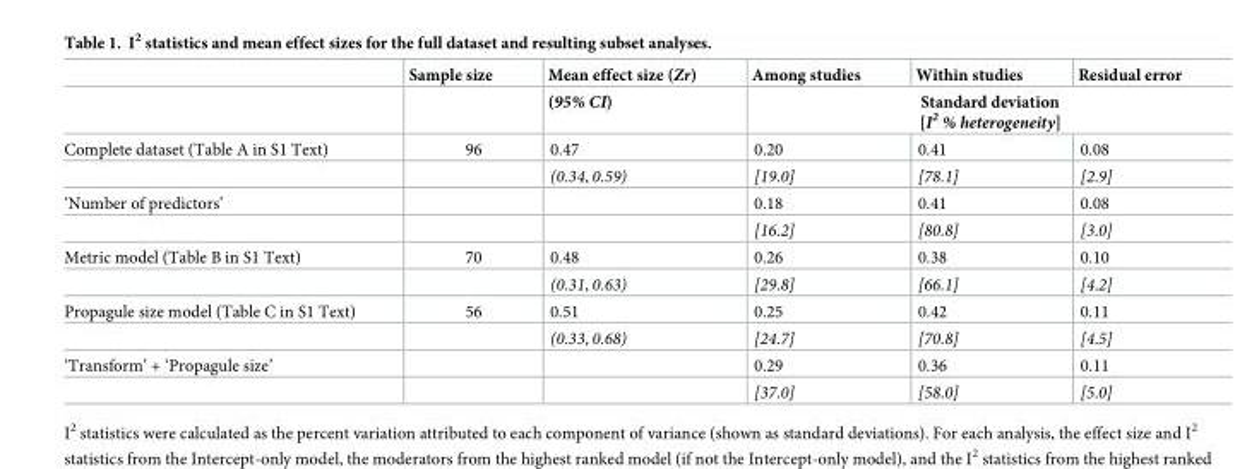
<table><thead><tr><td rowspan="2"></td><td rowspan="2">Sample size</td><td rowspan="2">Mean effect size (Zr) (95% CI)</td><td>Among studies</td><td>Within studies</td><td>Residual error</td></tr><tr><td colspan="3">Standard deviation [I<sup>2</sup> % heterogeneity]</td></tr></thead><tbody><tr><td rowspan="2">Complete dataset (Table A in S1 Text)</td><td>96</td><td>0.47</td><td>0.20</td><td>0.41</td><td>0.08</td></tr><tr><td></td><td>(0.34, 0.59)</td><td>[19.0]</td><td>[78.1]</td><td>[2.9]</td></tr><tr><td rowspan="2">‘Number of predictors’</td><td></td><td></td><td>0.18</td><td>0.41</td><td>0.08</td></tr><tr><td></td><td></td><td>[16.2]</td><td>[80.8]</td><td>[3.0]</td></tr><tr><td rowspan="2">Metric model (Table B in S1 Text)</td><td>70</td><td>0.48</td><td>0.26</td><td>0.38</td><td>0.10</td></tr><tr><td></td><td>(0.31, 0.63)</td><td>[29.8]</td><td>[66.1]</td><td>[4.2]</td></tr><tr><td rowspan="2">Propagule size model (Table C in S1 Text)</td><td>56</td><td>0.51</td><td>0.25</td><td>0.42</td><td>0.11</td></tr><tr><td></td><td>(0.33, 0.68)</td><td>[24.7]</td><td>[70.8]</td><td>[4.5]</td></tr><tr><td rowspan="2">‘Transform’ + ‘Propagule size’</td><td></td><td></td><td>0.29</td><td>0.36</td><td>0.11</td></tr><tr><td></td><td></td><td>[37.0]</td><td>[58.0]</td><td>[5.0]</td></tr></tbody></table>